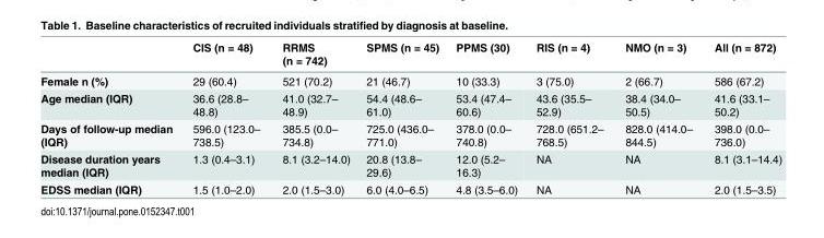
<table><thead><tr><td></td><td>CIS (n = 48)</td><td>RRMS (n = 742)</td><td>SPMS (n = 45)</td><td>PPMS (30)</td><td>RIS (n = 4)</td><td>NMO (n = 3)</td><td>All (n = 872)</td></tr></thead><tbody><tr><td>Female n (%)</td><td>29 (60.4)</td><td>521 (70.2)</td><td>21 (46.7)</td><td>10 (33.3)</td><td>3 (75.0)</td><td>2 (66.7)</td><td>586 (67.2)</td></tr><tr><td>Age median (IQR)</td><td>36.6 (28.8– 48.8)</td><td>41.0 (32.7– 48.9)</td><td>54.4 (48.6– 61.0)</td><td>53.4 (47.4– 60.6)</td><td>43.6 (35.5– 52.9)</td><td>38.4 (34.0– 50.5)</td><td>41.6 (33.1– 50.2)</td></tr><tr><td>Days of follow-up median (IQR)</td><td>596.0 (123.0– 738.5)</td><td>385.5 (0.0– 734.8)</td><td>725.0 (436.0– 771.0)</td><td>378.0 (0.0– 740.8)</td><td>728.0 (651.2– 768.5)</td><td>828.0 (414.0– 844.5)</td><td>398.0 (0.0– 736.0)</td></tr><tr><td>Disease duration years median (IQR)</td><td>1.3 (0.4–3.1)</td><td>8.1 (3.2–14.0)</td><td>20.8 (13.8– 29.6)</td><td>12.0 (5.2– 16.3)</td><td>NA</td><td>NA</td><td>8.1 (3.1–14.4)</td></tr><tr><td>EDSS median (IQR)</td><td>1.5 (1.0–2.0)</td><td>2.0 (1.5–3.0)</td><td>6.0 (4.0–6.5)</td><td>4.8 (3.5–6.0)</td><td>NA</td><td>NA</td><td>2.0 (1.5–3.5)</td></tr></tbody></table>